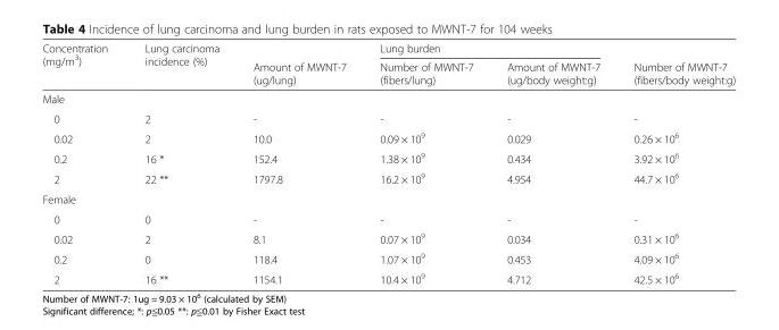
<table><thead><tr><td rowspan="2">Concentration (mg/m<sup>3</sup>)</td><td rowspan="2">Lung carcinoma incidence (%)</td><td rowspan="2">Amount of MWNT-7 (ug/lung)</td><td colspan="2">Lung burden</td><td rowspan="2">Number of MWNT-7 (fibers/body weight:g)</td></tr><tr><td>Number of MWNT-7 (fibers/lung)</td><td>Amount of MWNT-7 (ug/body weight:g)</td></tr></thead><tbody><tr><td colspan="6">Male</td></tr><tr><td>0</td><td>2</td><td>-</td><td>-</td><td>-</td><td>-</td></tr><tr><td>0.02</td><td>2</td><td>10.0</td><td>0.09 × 10<sup>9</sup></td><td>0.029</td><td>0.26 × 10<sup>6</sup></td></tr><tr><td>0.2</td><td>16 *</td><td>152.4</td><td>1.38 × 10<sup>9</sup></td><td>0.434</td><td>3.92 × 10<sup>6</sup></td></tr><tr><td>2</td><td>22 **</td><td>1797.8</td><td>16.2 × 10<sup>9</sup></td><td>4.954</td><td>44.7 × 10<sup>6</sup></td></tr><tr><td colspan="6">Female</td></tr><tr><td>0</td><td>0</td><td>-</td><td>-</td><td>-</td><td>-</td></tr><tr><td>0.02</td><td>2</td><td>8.1</td><td>0.07 × 10<sup>9</sup></td><td>0.034</td><td>0.31 × 10<sup>6</sup></td></tr><tr><td>0.2</td><td>0</td><td>118.4</td><td>1.07 × 10<sup>9</sup></td><td>0.453</td><td>4.09 × 10<sup>6</sup></td></tr><tr><td>2</td><td>16 **</td><td>1154.1</td><td>10.4 × 10<sup>9</sup></td><td>4.712</td><td>42.5 × 10<sup>6</sup></td></tr></tbody></table>